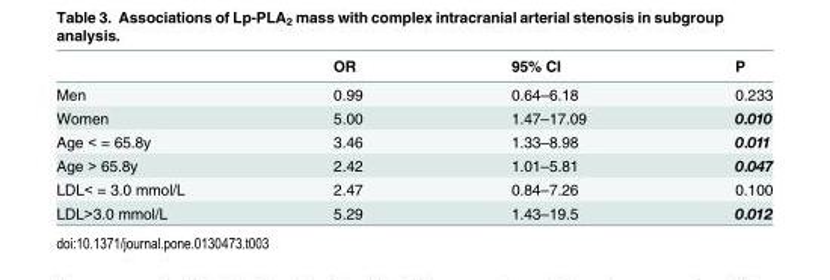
<table><thead><tr><td></td><td>OR</td><td>95% CI</td><td>P</td></tr></thead><tbody><tr><td>Men</td><td>0.99</td><td>0.64–6.18</td><td>0.233</td></tr><tr><td>Women</td><td>5.00</td><td>1.47–17.09</td><td>0.010</td></tr><tr><td>Age &lt; = 65.8y</td><td>3.46</td><td>1.33–8.98</td><td>0.011</td></tr><tr><td>Age &gt; 65.8y</td><td>2.42</td><td>1.01–5.81</td><td>0.047</td></tr><tr><td>LDL&lt; = 3.0 mmol/L</td><td>2.47</td><td>0.84–7.26</td><td>0.100</td></tr><tr><td>LDL&gt;3.0 mmol/L</td><td>5.29</td><td>1.43–19.5</td><td>0.012</td></tr></tbody></table>